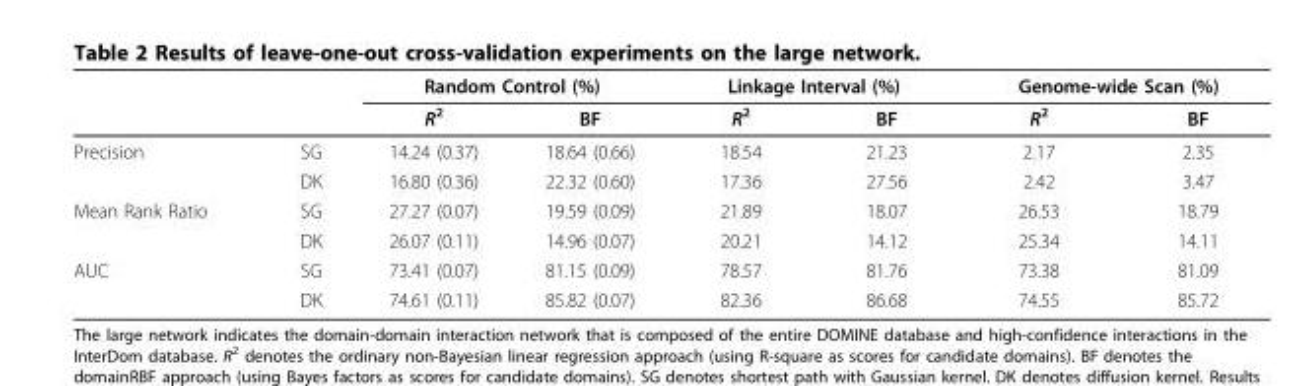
<table><thead><tr><td rowspan="2"></td><td rowspan="2"></td><td colspan="2">Random Control (%)</td><td colspan="2">Linkage Interval (%)</td><td colspan="2">Genome-wide Scan (%)</td></tr><tr><td>R<sup>2</sup></td><td>BF</td><td>R<sup>2</sup></td><td>BF</td><td>R<sup>2</sup></td><td>BF</td></tr></thead><tbody><tr><td rowspan="2">Precision</td><td>SG</td><td>14.24 (0.37)</td><td>18.64 (0.66)</td><td>18.54</td><td>21.23</td><td>2.17</td><td>2.35</td></tr><tr><td>DK</td><td>16.80 (0.36)</td><td>22.32 (0.60)</td><td>17.36</td><td>27.56</td><td>2.42</td><td>3.47</td></tr><tr><td rowspan="2">Mean Rank Ratio</td><td>SG</td><td>27.27 (0.07)</td><td>19.59 (0.09)</td><td>21.89</td><td>18.07</td><td>26.53</td><td>18.79</td></tr><tr><td>DK</td><td>26.07 (0.11)</td><td>14.96 (0.07)</td><td>20.21</td><td>14.12</td><td>25.34</td><td>14.11</td></tr><tr><td rowspan="2">AUC</td><td>SG</td><td>73.41 (0.07)</td><td>81.15 (0.09)</td><td>78.57</td><td>81.76</td><td>73.38</td><td>81.09</td></tr><tr><td>DK</td><td>74.61 (0.11)</td><td>85.82 (0.07)</td><td>82.36</td><td>86.68</td><td>74.55</td><td>85.72</td></tr></tbody></table>